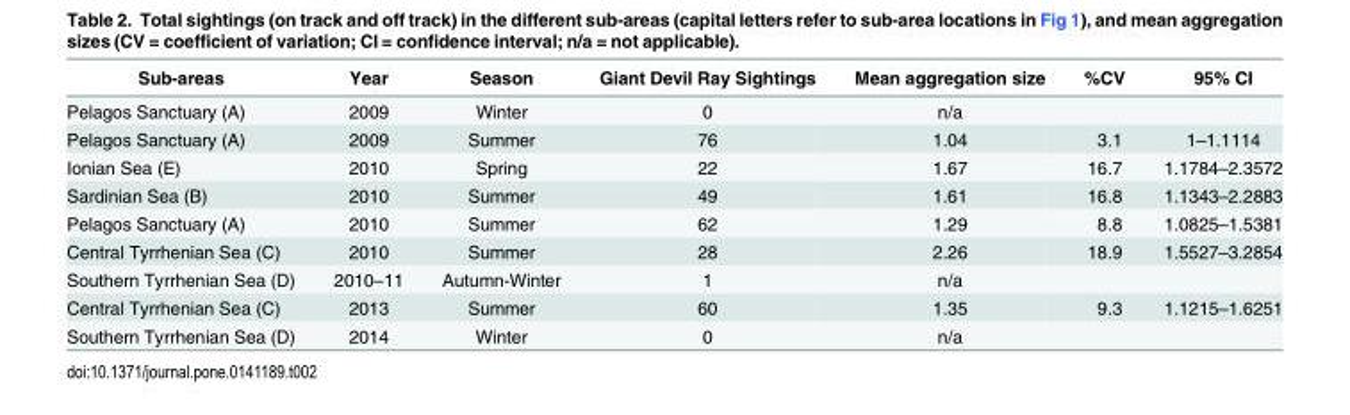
<table><thead><tr><td>Sub-areas</td><td>Year</td><td>Season</td><td>Giant Devil Ray Sightings</td><td>Mean aggregation size</td><td>%CV</td><td>95% CI</td></tr></thead><tbody><tr><td>Pelagos Sanctuary (A)</td><td>2009</td><td>Winter</td><td>0</td><td>n/a</td><td></td><td></td></tr><tr><td>Pelagos Sanctuary (A)</td><td>2009</td><td>Summer</td><td>76</td><td>1.04</td><td>3.1</td><td>1–1.1114</td></tr><tr><td>Ionian Sea (E)</td><td>2010</td><td>Spring</td><td>22</td><td>1.67</td><td>16.7</td><td>1.1784–2.3572</td></tr><tr><td>Sardinian Sea (B)</td><td>2010</td><td>Summer</td><td>49</td><td>1.61</td><td>16.8</td><td>1.1343–2.2883</td></tr><tr><td>Pelagos Sanctuary (A)</td><td>2010</td><td>Summer</td><td>62</td><td>1.29</td><td>8.8</td><td>1.0825–1.5381</td></tr><tr><td>Central Tyrrhenian Sea (C)</td><td>2010</td><td>Summer</td><td>28</td><td>2.26</td><td>18.9</td><td>1.5527–3.2854</td></tr><tr><td>Southern Tyrrhenian Sea (D)</td><td>2010–11</td><td>Autumn-Winter</td><td>1</td><td>n/a</td><td></td><td></td></tr><tr><td>Central Tyrrhenian Sea (C)</td><td>2013</td><td>Summer</td><td>60</td><td>1.35</td><td>9.3</td><td>1.1215–1.6251</td></tr><tr><td>Southern Tyrrhenian Sea (D)</td><td>2014</td><td>Winter</td><td>0</td><td>n/a</td><td></td><td></td></tr></tbody></table>